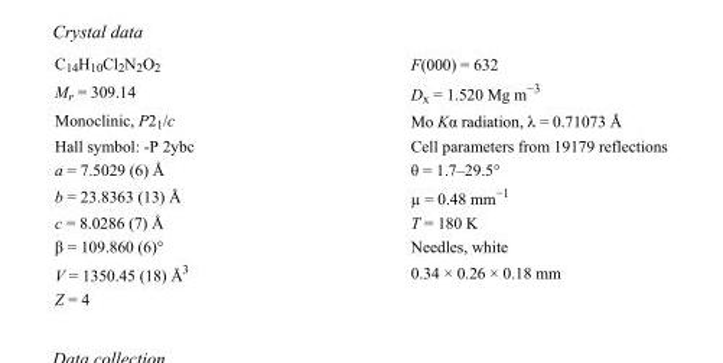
<table><tbody><tr><td>C<sub>14</sub>H<sub>10</sub>Cl<sub>2</sub>N<sub>2</sub>O<sub>2</sub></td><td>F(000) = 632</td></tr><tr><td>M<sub>r</sub> = 309.14</td><td>D<sub>x</sub> = 1.520 Mg m<sup>−3</sup></td></tr><tr><td>Monoclinic, P2<sub>1</sub>/c</td><td>Mo Kα radiation, λ = 0.71073 Å</td></tr><tr><td>Hall symbol: -P 2ybc</td><td>Cell parameters from 19179 reflections</td></tr><tr><td>a = 7.5029 (6) Å</td><td>θ = 1.7–29.5°</td></tr><tr><td>b = 23.8363 (13) Å</td><td>µ = 0.48 mm<sup>−1</sup></td></tr><tr><td>c = 8.0286 (7) Å</td><td>T = 180 K</td></tr><tr><td>β = 109.860 (6)°</td><td>Needles, white</td></tr><tr><td>V = 1350.45 (18) Å<sup>3</sup></td><td>0.34 × 0.26 × 0.18 mm</td></tr><tr><td>Z = 4</td><td></td></tr></tbody></table>